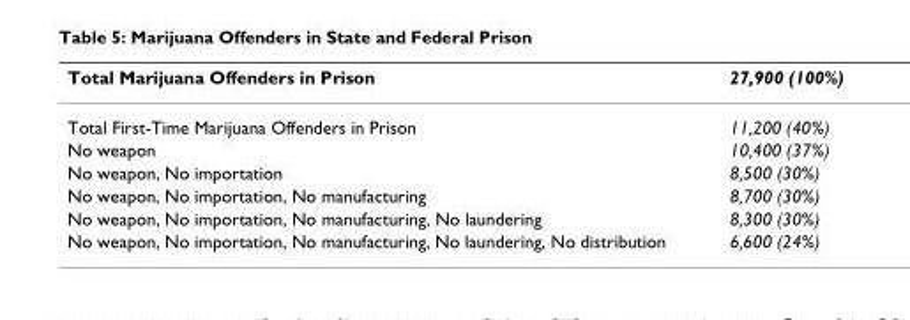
<table><thead><tr><td>Total Marijuana Offenders in Prison</td><td>27,900 (100%)</td></tr></thead><tbody><tr><td>Total First-Time Marijuana Offenders in Prison</td><td>11,200 (40%)</td></tr><tr><td>No weapon</td><td>10,400 (37%)</td></tr><tr><td>No weapon, No importation</td><td>8,500 (30%)</td></tr><tr><td>No weapon, No importation, No manufacturing</td><td>8,700 (30%)</td></tr><tr><td>No weapon, No importation, No manufacturing, No laundering</td><td>8,300 (30%)</td></tr><tr><td>No weapon, No importation, No manufacturing, No laundering, No distribution</td><td>6,600 (24%)</td></tr></tbody></table>